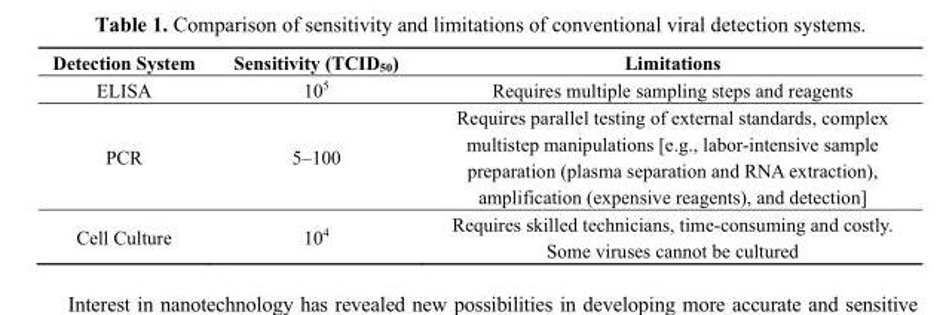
<table><thead><tr><td>Detection System</td><td>Sensitivity (TCID<sub>50</sub>)</td><td>Limitations</td></tr></thead><tbody><tr><td>ELISA</td><td>10<sup>5</sup></td><td>Requires multiple sampling steps and reagents</td></tr><tr><td>PCR</td><td>5–100</td><td>Requires parallel testing of external standards, complex multistep manipulations [e.g., labor-intensive sample preparation (plasma separation and RNA extraction), amplification (expensive reagents), and detection]</td></tr><tr><td>Cell Culture</td><td>10<sup>4</sup></td><td>Requires skilled technicians, time-consuming and costly. Some viruses cannot be cultured</td></tr></tbody></table>